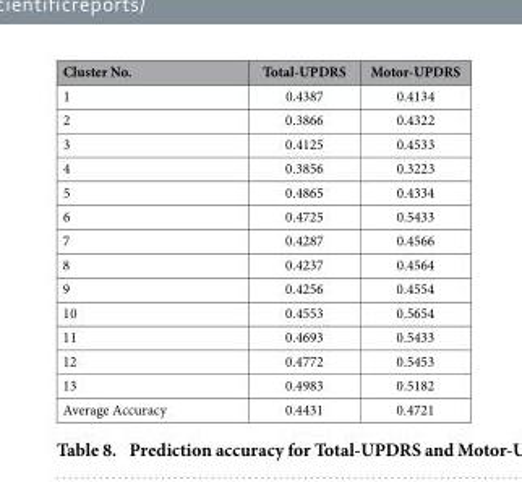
<table><thead><tr><td>Cluster No.</td><td>Total-UPDRS</td><td>Motor-UPDRS</td></tr></thead><tbody><tr><td>1</td><td>0.4387</td><td>0.4134</td></tr><tr><td>2</td><td>0.3866</td><td>0.4322</td></tr><tr><td>3</td><td>0.4125</td><td>0.4533</td></tr><tr><td>4</td><td>0.3856</td><td>0.3223</td></tr><tr><td>5</td><td>0.4865</td><td>0.4334</td></tr><tr><td>6</td><td>0.4725</td><td>0.5433</td></tr><tr><td>7</td><td>0.4287</td><td>0.4566</td></tr><tr><td>8</td><td>0.4237</td><td>0.4564</td></tr><tr><td>9</td><td>0.4256</td><td>0.4554</td></tr><tr><td>10</td><td>0.4553</td><td>0.5654</td></tr><tr><td>11</td><td>0.4693</td><td>0.5433</td></tr><tr><td>12</td><td>0.4772</td><td>0.5453</td></tr><tr><td>13</td><td>0.4983</td><td>0.5182</td></tr><tr><td>Average Accuracy</td><td>0.4431</td><td>0.4721</td></tr></tbody></table>